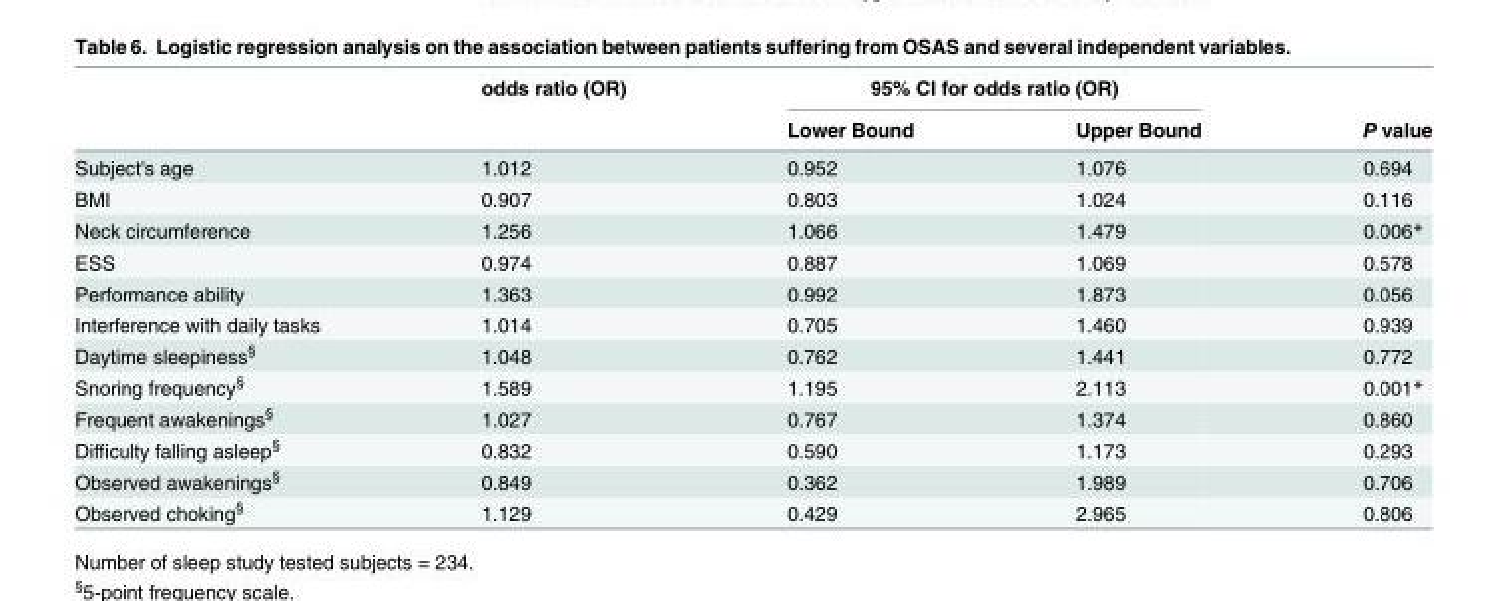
<table><thead><tr><td rowspan="2"></td><td rowspan="2">odds ratio (OR)</td><td colspan="2">95% CI for odds ratio (OR)</td><td rowspan="2">P value</td></tr><tr><td>Lower Bound</td><td>Upper Bound</td></tr></thead><tbody><tr><td>Subject&#x27;s age</td><td>1.012</td><td>0.952</td><td>1.076</td><td>0.694</td></tr><tr><td>BMI</td><td>0.907</td><td>0.803</td><td>1.024</td><td>0.116</td></tr><tr><td>Neck circumference</td><td>1.256</td><td>1.066</td><td>1.479</td><td>0.006*</td></tr><tr><td>ESS</td><td>0.974</td><td>0.887</td><td>1.069</td><td>0.578</td></tr><tr><td>Performance ability</td><td>1.363</td><td>0.992</td><td>1.873</td><td>0.056</td></tr><tr><td>Interference with daily tasks</td><td>1.014</td><td>0.705</td><td>1.460</td><td>0.939</td></tr><tr><td>Daytime sleepiness<sup>§</sup></td><td>1.048</td><td>0.762</td><td>1.441</td><td>0.772</td></tr><tr><td>Snoring frequency<sup>§</sup></td><td>1.589</td><td>1.195</td><td>2.113</td><td>0.001*</td></tr><tr><td>Frequent awakenings<sup>§</sup></td><td>1.027</td><td>0.767</td><td>1.374</td><td>0.860</td></tr><tr><td>Difficulty falling asleep<sup>§</sup></td><td>0.832</td><td>0.590</td><td>1.173</td><td>0.293</td></tr><tr><td>Observed awakenings<sup>§</sup></td><td>0.849</td><td>0.362</td><td>1.989</td><td>0.706</td></tr><tr><td>Observed choking<sup>§</sup></td><td>1.129</td><td>0.429</td><td>2.965</td><td>0.806</td></tr></tbody></table>